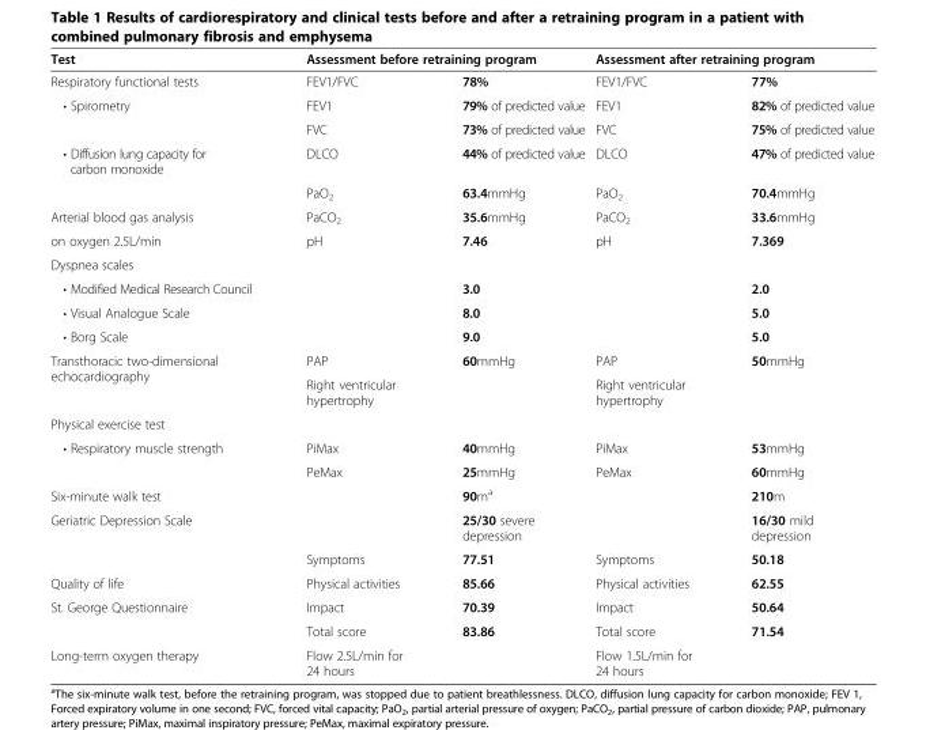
<table><thead><tr><td rowspan="2">Test Respiratory functional tests</td><td colspan="2">Assessment before retraining program</td><td colspan="2">Assessment after retraining program</td></tr><tr><td>FEV1/FVC</td><td>78%</td><td>FEV1/FVC</td><td>77%</td></tr></thead><tbody><tr><td rowspan="2">• Spirometry</td><td>FEV1</td><td>79% of predicted value</td><td>FEV1</td><td>82% of predicted value</td></tr><tr><td>FVC</td><td>73% of predicted value</td><td>FVC</td><td>75% of predicted value</td></tr><tr><td rowspan="2">• Diffusion lung capacity for carbon monoxide</td><td>DLCO</td><td>44% of predicted value</td><td>DLCO</td><td>47% of predicted value</td></tr><tr><td>PaO<sub>2</sub></td><td>63.4mmHg</td><td>PaO<sub>2</sub></td><td>70.4mmHg</td></tr><tr><td>Arterial blood gas analysis</td><td>PaCO<sub>2</sub></td><td>35.6mmHg</td><td>PaCO<sub>2</sub></td><td>33.6mmHg</td></tr><tr><td>on oxygen 2.5L/min</td><td>pH</td><td>7.46</td><td>pH</td><td>7.369</td></tr><tr><td colspan="5">Dyspnea scales</td></tr><tr><td>• Modified Medical Research Council</td><td></td><td>3.0</td><td></td><td>2.0</td></tr><tr><td>• Visual Analogue Scale</td><td></td><td>8.0</td><td></td><td>5.0</td></tr><tr><td>• Borg Scale</td><td></td><td>9.0</td><td></td><td>5.0</td></tr><tr><td rowspan="2">Transthoracic two-dimensional echocardiography</td><td>PAP</td><td>60mmHg</td><td>PAP</td><td>50mmHg</td></tr><tr><td>Right ventricular hypertrophy</td><td></td><td>Right ventricular hypertrophy</td><td></td></tr><tr><td colspan="5">Physical exercise test</td></tr><tr><td rowspan="2">• Respiratory muscle strength</td><td>PiMax</td><td>40mmHg</td><td>PiMax</td><td>53mmHg</td></tr><tr><td>PeMax</td><td>25mmHg</td><td>PeMax</td><td>60mmHg</td></tr><tr><td>Six-minute walk test</td><td></td><td>90m<sup>a</sup></td><td></td><td>210m</td></tr><tr><td rowspan="2">Geriatric Depression Scale</td><td></td><td>25/30 severe depression</td><td></td><td>16/30 mild depression</td></tr><tr><td>Symptoms</td><td>77.51</td><td>Symptoms</td><td>50.18</td></tr><tr><td>Quality of life</td><td>Physical activities</td><td>85.66</td><td>Physical activities</td><td>62.55</td></tr><tr><td rowspan="2">St. George Questionnaire</td><td>Impact</td><td>70.39</td><td>Impact</td><td>50.64</td></tr><tr><td>Total score</td><td>83.86</td><td>Total score</td><td>71.54</td></tr><tr><td>Long-term oxygen therapy</td><td>Flow 2.5L/min for 24 hours</td><td></td><td>Flow 1.5L/min for 24 hours</td><td></td></tr></tbody></table>